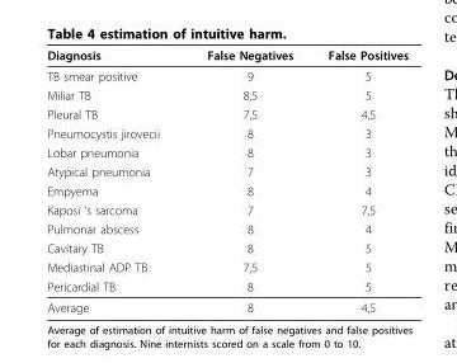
<table><thead><tr><td>Diagnosis</td><td>False Negatives</td><td>False Positives</td></tr></thead><tbody><tr><td>TB smear positive</td><td>9</td><td>5</td></tr><tr><td>Miliar TB</td><td>8,5</td><td>5</td></tr><tr><td>Pleural TB</td><td>7,5</td><td>4,5</td></tr><tr><td>Pneumocystis jirovecii</td><td>8</td><td>3</td></tr><tr><td>Lobar pneumonia</td><td>8</td><td>3</td></tr><tr><td>Atypical pneumonia</td><td>7</td><td>3</td></tr><tr><td>Empyema</td><td>8</td><td>4</td></tr><tr><td>Kaposi ‘s sarcoma</td><td>7</td><td>7,5</td></tr><tr><td>Pulmonar abscess</td><td>8</td><td>4</td></tr><tr><td>Cavitary TB</td><td>8</td><td>5</td></tr><tr><td>Mediastinal ADP TB</td><td>7,5</td><td>5</td></tr><tr><td>Pericardial TB</td><td>8</td><td>5</td></tr><tr><td>Average</td><td>8</td><td>4,5</td></tr></tbody></table>